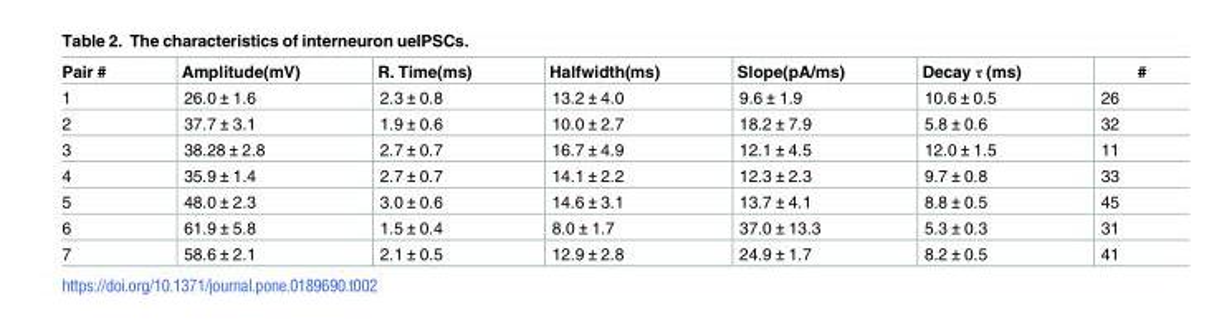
<table><thead><tr><td>Pair #</td><td>Amplitude(mV)</td><td>R. Time(ms)</td><td>Halfwidth(ms)</td><td>Slope(pA/ms)</td><td>Decay τ (ms)</td><td>#</td></tr></thead><tbody><tr><td>1</td><td>26.0 ± 1.6</td><td>2.3 ± 0.8</td><td>13.2 ± 4.0</td><td>9.6 ± 1.9</td><td>10.6 ± 0.5</td><td>26</td></tr><tr><td>2</td><td>37.7 ± 3.1</td><td>1.9 ± 0.6</td><td>10.0 ± 2.7</td><td>18.2 ± 7.9</td><td>5.8 ± 0.6</td><td>32</td></tr><tr><td>3</td><td>38.28 ± 2.8</td><td>2.7 ± 0.7</td><td>16.7 ± 4.9</td><td>12.1 ± 4.5</td><td>12.0 ± 1.5</td><td>11</td></tr><tr><td>4</td><td>35.9 ± 1.4</td><td>2.7 ± 0.7</td><td>14.1 ± 2.2</td><td>12.3 ± 2.3</td><td>9.7 ± 0.8</td><td>33</td></tr><tr><td>5</td><td>48.0 ± 2.3</td><td>3.0 ± 0.6</td><td>14.6 ± 3.1</td><td>13.7 ± 4.1</td><td>8.8 ± 0.5</td><td>45</td></tr><tr><td>6</td><td>61.9 ± 5.8</td><td>1.5 ± 0.4</td><td>8.0 ± 1.7</td><td>37.0 ± 13.3</td><td>5.3 ± 0.3</td><td>31</td></tr><tr><td>7</td><td>58.6 ± 2.1</td><td>2.1 ± 0.5</td><td>12.9 ± 2.8</td><td>24.9 ± 1.7</td><td>8.2 ± 0.5</td><td>41</td></tr></tbody></table>